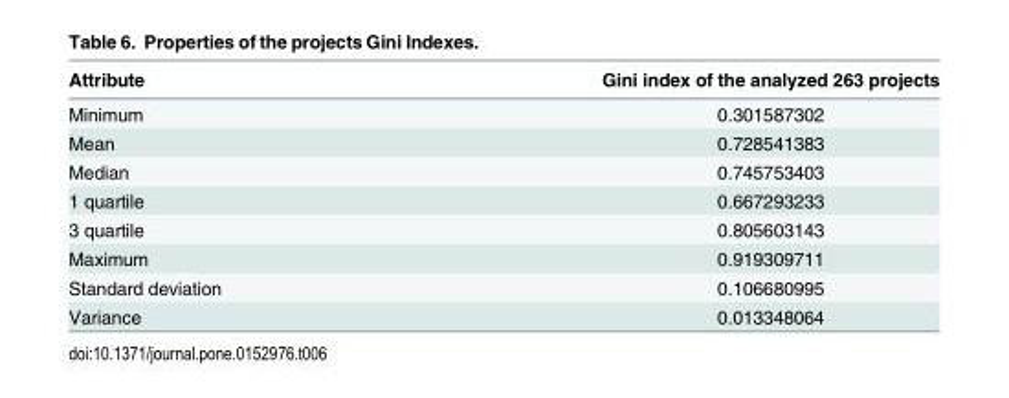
<table><thead><tr><td>Attribute</td><td>Gini index of the analyzed 263 projects</td></tr></thead><tbody><tr><td>Minimum</td><td>0.301587302</td></tr><tr><td>Mean</td><td>0.728541383</td></tr><tr><td>Median</td><td>0.745753403</td></tr><tr><td>1 quartile</td><td>0.667293233</td></tr><tr><td>3 quartile</td><td>0.805603143</td></tr><tr><td>Maximum</td><td>0.919309711</td></tr><tr><td>Standard deviation</td><td>0.106680995</td></tr><tr><td>Variance</td><td>0.013348064</td></tr></tbody></table>